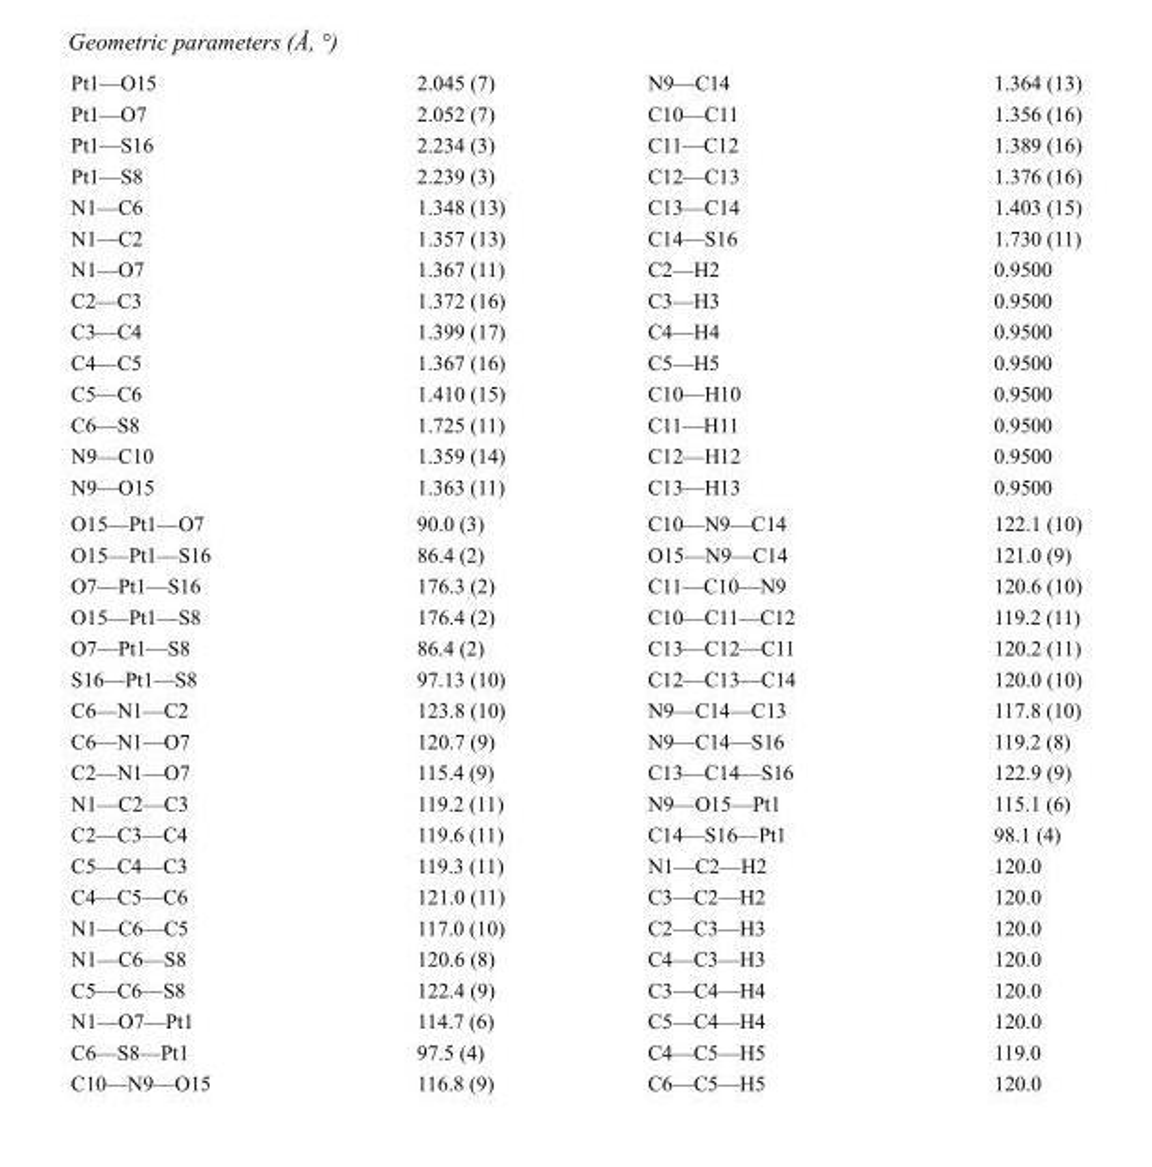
<table><tbody><tr><td>Pt1—O15</td><td>2.045 (7)</td><td>N9—C14</td><td>1.364 (13)</td></tr><tr><td>Pt1—O7</td><td>2.052 (7)</td><td>C10—C11</td><td>1.356 (16)</td></tr><tr><td>Pt1—S16</td><td>2.234 (3)</td><td>C11—C12</td><td>1.389 (16)</td></tr><tr><td>Pt1—S8</td><td>2.239 (3)</td><td>C12—C13</td><td>1.376 (16)</td></tr><tr><td>N1—C6</td><td>1.348 (13)</td><td>C13—C14</td><td>1.403 (15)</td></tr><tr><td>N1—C2</td><td>1.357 (13)</td><td>C14—S16</td><td>1.730 (11)</td></tr><tr><td>N1—O7</td><td>1.367 (11)</td><td>C2—H2</td><td>0.9500</td></tr><tr><td>C2—C3</td><td>1.372 (16)</td><td>C3—H3</td><td>0.9500</td></tr><tr><td>C3—C4</td><td>1.399 (17)</td><td>C4—H4</td><td>0.9500</td></tr><tr><td>C4—C5</td><td>1.367 (16)</td><td>C5—H5</td><td>0.9500</td></tr><tr><td>C5—C6</td><td>1.410 (15)</td><td>C10—H10</td><td>0.9500</td></tr><tr><td>C6—S8</td><td>1.725 (11)</td><td>C11—H11</td><td>0.9500</td></tr><tr><td>N9—C10</td><td>1.359 (14)</td><td>C12—H12</td><td>0.9500</td></tr><tr><td>N9—O15</td><td>1.363 (11)</td><td>C13—H13</td><td>0.9500</td></tr><tr><td>O15—Pt1—O7</td><td>90.0 (3)</td><td>C10—N9—C14</td><td>122.1 (10)</td></tr><tr><td>O15—Pt1—S16</td><td>86.4 (2)</td><td>O15—N9—C14</td><td>121.0 (9)</td></tr><tr><td>O7—Pt1—S16</td><td>176.3 (2)</td><td>C11—C10—N9</td><td>120.6 (10)</td></tr><tr><td>O15—Pt1—S8</td><td>176.4 (2)</td><td>C10—C11—C12</td><td>119.2 (11)</td></tr><tr><td>O7—Pt1—S8</td><td>86.4 (2)</td><td>C13—C12—C11</td><td>120.2 (11)</td></tr><tr><td>S16—Pt1—S8</td><td>97.13 (10)</td><td>C12—C13—C14</td><td>120.0 (10)</td></tr><tr><td>C6—N1—C2</td><td>123.8 (10)</td><td>N9—C14—C13</td><td>117.8 (10)</td></tr><tr><td>C6—N1—O7</td><td>120.7 (9)</td><td>N9—C14—S16</td><td>119.2 (8)</td></tr><tr><td>C2—N1—O7</td><td>115.4 (9)</td><td>C13—C14—S16</td><td>122.9 (9)</td></tr><tr><td>N1—C2—C3</td><td>119.2 (11)</td><td>N9—O15—Pt1</td><td>115.1 (6)</td></tr><tr><td>C2—C3—C4</td><td>119.6 (11)</td><td>C14—S16—Pt1</td><td>98.1 (4)</td></tr><tr><td>C5—C4—C3</td><td>119.3 (11)</td><td>N1—C2—H2</td><td>120.0</td></tr><tr><td>C4—C5—C6</td><td>121.0 (11)</td><td>C3—C2—H2</td><td>120.0</td></tr><tr><td>N1—C6—C5</td><td>117.0 (10)</td><td>C2—C3—H3</td><td>120.0</td></tr><tr><td>N1—C6—S8</td><td>120.6 (8)</td><td>C4—C3—H3</td><td>120.0</td></tr><tr><td>C5—C6—S8</td><td>122.4 (9)</td><td>C3—C4—H4</td><td>120.0</td></tr><tr><td>N1—O7—Pt1</td><td>114.7 (6)</td><td>C5—C4—H4</td><td>120.0</td></tr><tr><td>C6—S8—Pt1</td><td>97.5 (4)</td><td>C4—C5—H5</td><td>119.0</td></tr><tr><td>C10—N9—O15</td><td>116.8 (9)</td><td>C6—C5—H5</td><td>120.0</td></tr></tbody></table>